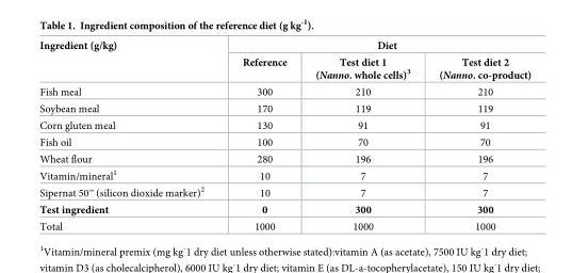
<table><thead><tr><td rowspan="2">Ingredient (g/kg)</td><td colspan="3">Diet</td></tr><tr><td>Reference</td><td>Test diet 1 (Nanno. whole cells)<sup>3</sup></td><td>Test diet 2 (Nanno. co-product)</td></tr></thead><tbody><tr><td>Fish meal</td><td>300</td><td>210</td><td>210</td></tr><tr><td>Soybean meal</td><td>170</td><td>119</td><td>119</td></tr><tr><td>Corn gluten meal</td><td>130</td><td>91</td><td>91</td></tr><tr><td>Fish oil</td><td>100</td><td>70</td><td>70</td></tr><tr><td>Wheat flour</td><td>280</td><td>196</td><td>196</td></tr><tr><td>Vitamin/mineral<sup>1</sup></td><td>10</td><td>7</td><td>7</td></tr><tr><td>Sipernat 50<sup>™</sup> (silicon dioxide marker)<sup>2</sup></td><td>10</td><td>7</td><td>7</td></tr><tr><td>Test ingredient</td><td>0</td><td>300</td><td>300</td></tr><tr><td>Total</td><td>1000</td><td>1000</td><td>1000</td></tr></tbody></table>